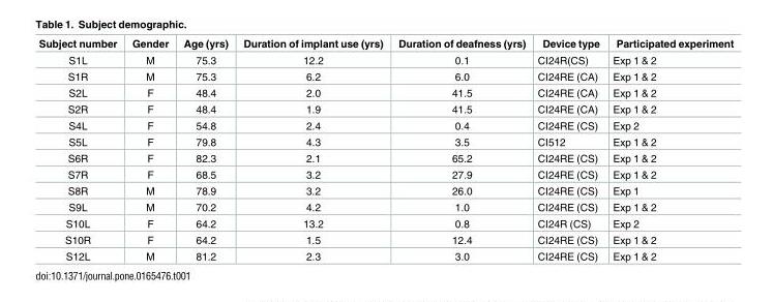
<table><thead><tr><td>Subject number</td><td>Gender</td><td>Age (yrs)</td><td>Duration of implant use (yrs)</td><td>Duration of deafness (yrs)</td><td>Device type</td><td>Participated experiment</td></tr></thead><tbody><tr><td>S1L</td><td>M</td><td>75.3</td><td>12.2</td><td>0.1</td><td>CI24R(CS)</td><td>Exp 1 &amp; 2</td></tr><tr><td>S1R</td><td>M</td><td>75.3</td><td>6.2</td><td>6.0</td><td>CI24RE (CA)</td><td>Exp 1 &amp; 2</td></tr><tr><td>S2L</td><td>F</td><td>48.4</td><td>2.0</td><td>41.5</td><td>CI24RE (CA)</td><td>Exp 1 &amp; 2</td></tr><tr><td>S2R</td><td>F</td><td>48.4</td><td>1.9</td><td>41.5</td><td>CI24RE (CA)</td><td>Exp 1 &amp; 2</td></tr><tr><td>S4L</td><td>F</td><td>54.8</td><td>2.4</td><td>0.4</td><td>CI24RE (CS)</td><td>Exp 2</td></tr><tr><td>S5L</td><td>F</td><td>79.8</td><td>4.3</td><td>3.5</td><td>CI512</td><td>Exp 1 &amp; 2</td></tr><tr><td>S6R</td><td>F</td><td>82.3</td><td>2.1</td><td>65.2</td><td>CI24RE (CS)</td><td>Exp 1 &amp; 2</td></tr><tr><td>S7R</td><td>F</td><td>68.5</td><td>3.2</td><td>27.9</td><td>CI24RE (CS)</td><td>Exp 1 &amp; 2</td></tr><tr><td>S8R</td><td>M</td><td>78.9</td><td>3.2</td><td>26.0</td><td>CI24RE (CS)</td><td>Exp 1</td></tr><tr><td>S9L</td><td>M</td><td>70.2</td><td>4.2</td><td>1.0</td><td>CI24RE (CS)</td><td>Exp 1 &amp; 2</td></tr><tr><td>S10L</td><td>F</td><td>64.2</td><td>13.2</td><td>0.8</td><td>CI24R (CS)</td><td>Exp 2</td></tr><tr><td>S10R</td><td>F</td><td>64.2</td><td>1.5</td><td>12.4</td><td>CI24RE (CS)</td><td>Exp 1 &amp; 2</td></tr><tr><td>S12L</td><td>M</td><td>81.2</td><td>2.3</td><td>3.0</td><td>CI24RE (CS)</td><td>Exp 1 &amp; 2</td></tr></tbody></table>